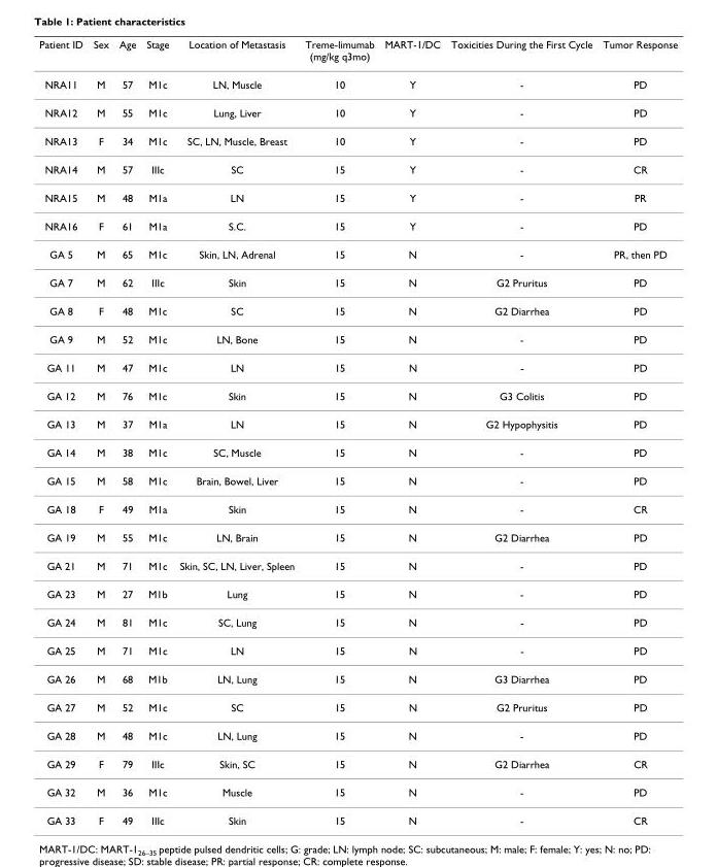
<table><thead><tr><td>Patient ID</td><td>Sex</td><td>Age</td><td>Stage</td><td>Location of Metastasis</td><td>Treme-limumab (mg/kg q3mo)</td><td>MART-1/DC</td><td>Toxicities During the First Cycle</td><td>Tumor Response</td></tr></thead><tbody><tr><td>NRA11</td><td>M</td><td>57</td><td>M1c</td><td>LN, Muscle</td><td>10</td><td>Y</td><td>-</td><td>PD</td></tr><tr><td>NRA12</td><td>M</td><td>55</td><td>M1c</td><td>Lung, Liver</td><td>10</td><td>Y</td><td>-</td><td>PD</td></tr><tr><td>NRA13</td><td>F</td><td>34</td><td>M1c</td><td>SC, LN, Muscle, Breast</td><td>10</td><td>Y</td><td>-</td><td>PD</td></tr><tr><td>NRA14</td><td>M</td><td>57</td><td>IIIc</td><td>SC</td><td>15</td><td>Y</td><td>-</td><td>CR</td></tr><tr><td>NRA15</td><td>M</td><td>48</td><td>M1a</td><td>LN</td><td>15</td><td>Y</td><td>-</td><td>PR</td></tr><tr><td>NRA16</td><td>F</td><td>61</td><td>M1a</td><td>S.C.</td><td>15</td><td>Y</td><td>-</td><td>PD</td></tr><tr><td>GA 5</td><td>M</td><td>65</td><td>M1c</td><td>Skin, LN, Adrenal</td><td>15</td><td>N</td><td>-</td><td>PR, then PD</td></tr><tr><td>GA 7</td><td>M</td><td>62</td><td>IIIc</td><td>Skin</td><td>15</td><td>N</td><td>G2 Pruritus</td><td>PD</td></tr><tr><td>GA 8</td><td>F</td><td>48</td><td>M1c</td><td>SC</td><td>15</td><td>N</td><td>G2 Diarrhea</td><td>PD</td></tr><tr><td>GA 9</td><td>M</td><td>52</td><td>M1c</td><td>LN, Bone</td><td>15</td><td>N</td><td>-</td><td>PD</td></tr><tr><td>GA 11</td><td>M</td><td>47</td><td>M1c</td><td>LN</td><td>15</td><td>N</td><td>-</td><td>PD</td></tr><tr><td>GA 12</td><td>M</td><td>76</td><td>M1c</td><td>Skin</td><td>15</td><td>N</td><td>G3 Colitis</td><td>PD</td></tr><tr><td>GA 13</td><td>M</td><td>37</td><td>M1a</td><td>LN</td><td>15</td><td>N</td><td>G2 Hypophysitis</td><td>PD</td></tr><tr><td>GA 14</td><td>M</td><td>38</td><td>M1c</td><td>SC, Muscle</td><td>15</td><td>N</td><td>-</td><td>PD</td></tr><tr><td>GA 15</td><td>M</td><td>58</td><td>M1c</td><td>Brain, Bowel, Liver</td><td>15</td><td>N</td><td>-</td><td>PD</td></tr><tr><td>GA 18</td><td>F</td><td>49</td><td>M1a</td><td>Skin</td><td>15</td><td>N</td><td>-</td><td>CR</td></tr><tr><td>GA 19</td><td>M</td><td>55</td><td>M1c</td><td>LN, Brain</td><td>15</td><td>N</td><td>G2 Diarrhea</td><td>PD</td></tr><tr><td>GA 21</td><td>M</td><td>71</td><td>M1c</td><td>Skin, SC, LN, Liver, Spleen</td><td>15</td><td>N</td><td>-</td><td>PD</td></tr><tr><td>GA 23</td><td>M</td><td>27</td><td>M1b</td><td>Lung</td><td>15</td><td>N</td><td>-</td><td>PD</td></tr><tr><td>GA 24</td><td>M</td><td>81</td><td>M1c</td><td>SC, Lung</td><td>15</td><td>N</td><td>-</td><td>PD</td></tr><tr><td>GA 25</td><td>M</td><td>71</td><td>M1c</td><td>LN</td><td>15</td><td>N</td><td>-</td><td>PD</td></tr><tr><td>GA 26</td><td>M</td><td>68</td><td>M1b</td><td>LN, Lung</td><td>15</td><td>N</td><td>G3 Diarrhea</td><td>PD</td></tr><tr><td>GA 27</td><td>M</td><td>52</td><td>M1c</td><td>SC</td><td>15</td><td>N</td><td>G2 Pruritus</td><td>PD</td></tr><tr><td>GA 28</td><td>M</td><td>48</td><td>M1c</td><td>LN, Lung</td><td>15</td><td>N</td><td>-</td><td>PD</td></tr><tr><td>GA 29</td><td>F</td><td>79</td><td>IIIc</td><td>Skin, SC</td><td>15</td><td>N</td><td>G2 Diarrhea</td><td>CR</td></tr><tr><td>GA 32</td><td>M</td><td>36</td><td>M1c</td><td>Muscle</td><td>15</td><td>N</td><td>-</td><td>PD</td></tr><tr><td>GA 33</td><td>F</td><td>49</td><td>IIIc</td><td>Skin</td><td>15</td><td>N</td><td>-</td><td>CR</td></tr></tbody></table>